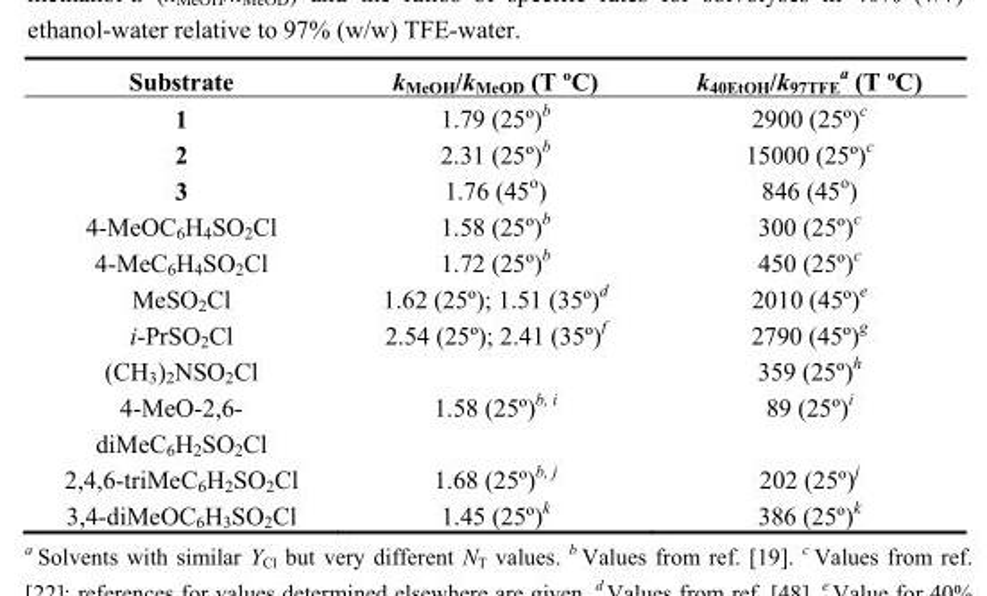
<table><thead><tr><td>Substrate</td><td>k<sub>MeOH</sub>/k<sub>MeOD</sub> (T ºC)</td><td>k<sub>40EtOH</sub>/k<sub>97TFE</sub> <sup>a</sup> (T ºC)</td></tr></thead><tbody><tr><td>1</td><td>1.79 (25º)<sup>b</sup></td><td>2900 (25º)<sup>c</sup></td></tr><tr><td>2</td><td>2.31 (25º)<sup>b</sup></td><td>15000 (25º)<sup>c</sup></td></tr><tr><td>3</td><td>1.76 (45°)</td><td>846 (45°)</td></tr><tr><td>4-MeOC<sub>6</sub>H<sub>4</sub>SO<sub>2</sub>Cl</td><td>1.58 (25º)<sup>b</sup></td><td>300 (25º)<sup>c</sup></td></tr><tr><td>4-MeC<sub>6</sub>H<sub>4</sub>SO<sub>2</sub>Cl</td><td>1.72 (25º)<sup>b</sup></td><td>450 (25º)<sup>c</sup></td></tr><tr><td>MeSO<sub>2</sub>Cl</td><td>1.62 (25º); 1.51 (35º)<sup>d</sup></td><td>2010 (45º)<sup>e</sup></td></tr><tr><td>i-PrSO<sub>2</sub>Cl</td><td>2.54 (25º); 2.41 (35º)<sup>f</sup></td><td>2790 (45º)<sup>g</sup></td></tr><tr><td>(CH<sub>3</sub>)<sub>2</sub>NSO<sub>2</sub>Cl</td><td></td><td>359 (25º)<sup>h</sup></td></tr><tr><td>4-MeO-2,6- diMeC<sub>6</sub>H<sub>2</sub>SO<sub>2</sub>Cl</td><td>1.58 (25º)<sup>b, i</sup></td><td>89 (25º)<sup>i</sup></td></tr><tr><td>2,4,6-triMeC<sub>6</sub>H<sub>2</sub>SO<sub>2</sub>Cl</td><td>1.68 (25º)<sup>b, j</sup></td><td>202 (25º)<sup>j</sup></td></tr><tr><td>3,4-diMeOC<sub>6</sub>H<sub>3</sub>SO<sub>2</sub>Cl</td><td>1.45 (25º)<sup>k</sup></td><td>386 (25º)<sup>k</sup></td></tr></tbody></table>